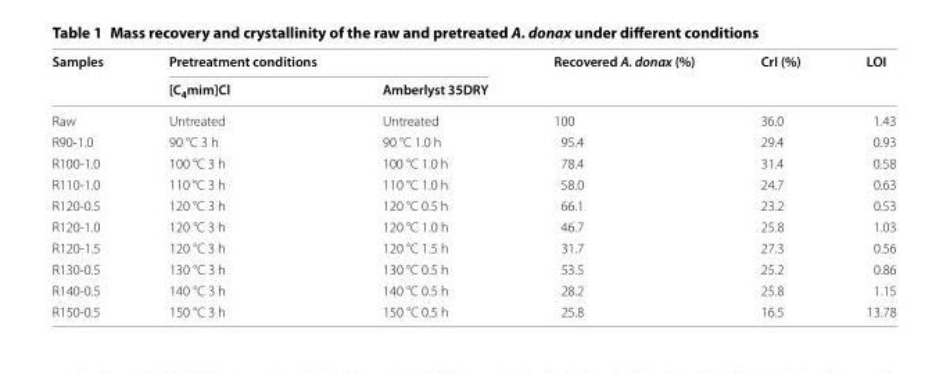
<table><thead><tr><td rowspan="2">Samples</td><td colspan="2">Pretreatment conditions</td><td rowspan="2">Recovered A. donax (%)</td><td rowspan="2">CrI (%)</td><td rowspan="2">LOI</td></tr><tr><td>[C<sub>4</sub>mim]Cl</td><td>Amberlyst 35DRY</td></tr></thead><tbody><tr><td>Raw</td><td>Untreated</td><td>Untreated</td><td>100</td><td>36.0</td><td>1.43</td></tr><tr><td>R90-1.0</td><td>90 °C 3 h</td><td>90 °C 1.0 h</td><td>95.4</td><td>29.4</td><td>0.93</td></tr><tr><td>R100-1.0</td><td>100 °C 3 h</td><td>100 °C 1.0 h</td><td>78.4</td><td>31.4</td><td>0.58</td></tr><tr><td>R110-1.0</td><td>110 °C 3 h</td><td>110 °C 1.0 h</td><td>58.0</td><td>24.7</td><td>0.63</td></tr><tr><td>R120-0.5</td><td>120 °C 3 h</td><td>120 °C 0.5 h</td><td>66.1</td><td>23.2</td><td>0.53</td></tr><tr><td>R120-1.0</td><td>120 °C 3 h</td><td>120 °C 1.0 h</td><td>46.7</td><td>25.8</td><td>1.03</td></tr><tr><td>R120-1.5</td><td>120 °C 3 h</td><td>120 °C 1.5 h</td><td>31.7</td><td>27.3</td><td>0.56</td></tr><tr><td>R130-0.5</td><td>130 °C 3 h</td><td>130 °C 0.5 h</td><td>53.5</td><td>25.2</td><td>0.86</td></tr><tr><td>R140-0.5</td><td>140 °C 3 h</td><td>140 °C 0.5 h</td><td>28.2</td><td>25.8</td><td>1.15</td></tr><tr><td>R150-0.5</td><td>150 °C 3 h</td><td>150 °C 0.5 h</td><td>25.8</td><td>16.5</td><td>13.78</td></tr></tbody></table>